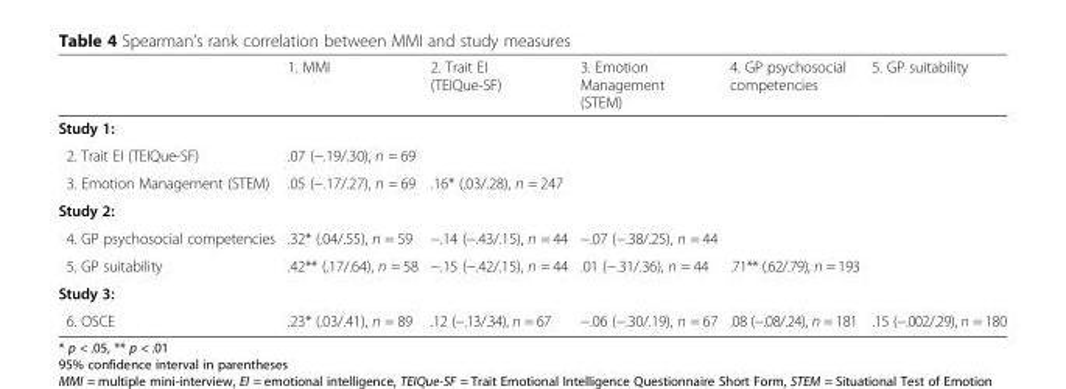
<table><thead><tr><td></td><td>1. MMI</td><td>2. Trait EI (TEIQue-SF)</td><td>3. Emotion Management (STEM)</td><td>4. GP psychosocial competencies</td><td>5. GP suitability</td></tr></thead><tbody><tr><td colspan="6">Study 1:</td></tr><tr><td>2. Trait EI (TEIQue-SF)</td><td>.07 (−.19/.30), n = 69</td><td></td><td></td><td></td><td></td></tr><tr><td>3. Emotion Management (STEM)</td><td>.05 (−.17/.27), n = 69</td><td>.16* (.03/.28), n = 247</td><td></td><td></td><td></td></tr><tr><td colspan="6">Study 2:</td></tr><tr><td>4. GP psychosocial competencies</td><td>.32* (.04/.55), n = 59</td><td>−.14 (−.43/.15), n = 44</td><td>−.07 (−.38/.25), n = 44</td><td></td><td></td></tr><tr><td>5. GP suitability</td><td>.42** (.17/.64), n = 58</td><td>−.15 (−.42/.15), n = 44</td><td>.01 (−.31/.36), n = 44</td><td>.71** (.62/.79), n = 193</td><td></td></tr><tr><td colspan="6">Study 3:</td></tr><tr><td>6. OSCE</td><td>.23* (.03/.41), n = 89</td><td>.12 (−.13/.34), n = 67</td><td>−.06 (−.30/.19), n = 67</td><td>.08 (−.08/.24), n = 181</td><td>.15 (−.002/.29), n = 180</td></tr></tbody></table>